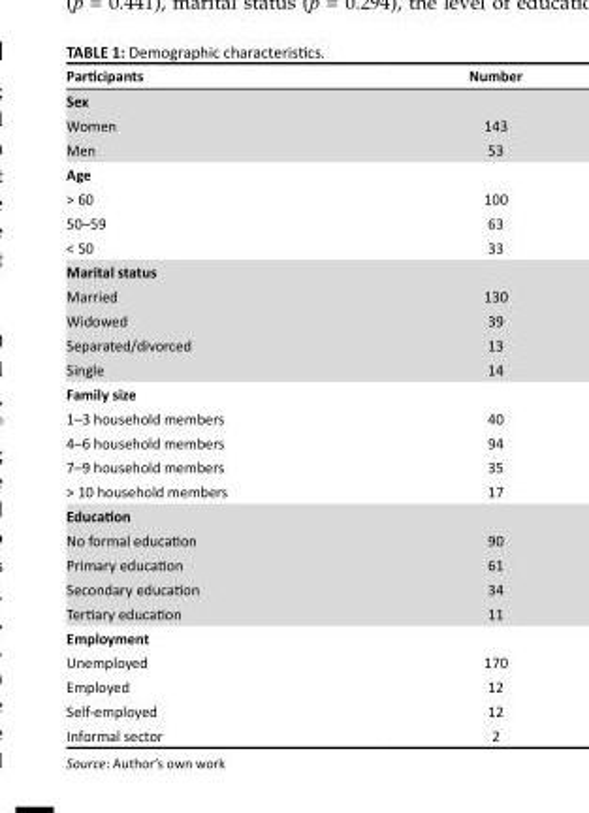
<table><thead><tr><td>Participants</td><td>Number</td></tr></thead><tbody><tr><td colspan="2">Sex</td></tr><tr><td>Women</td><td>143</td></tr><tr><td>Men</td><td>53</td></tr><tr><td colspan="2">Age</td></tr><tr><td>&gt; 60</td><td>100</td></tr><tr><td>50–59</td><td>63</td></tr><tr><td>&lt; 50</td><td>33</td></tr><tr><td colspan="2">Marital status</td></tr><tr><td>Married</td><td>130</td></tr><tr><td>Widowed</td><td>39</td></tr><tr><td>Separated/divorced</td><td>13</td></tr><tr><td>Single</td><td>14</td></tr><tr><td colspan="2">Family size</td></tr><tr><td>1–3 household members</td><td>40</td></tr><tr><td>4–6 household members</td><td>94</td></tr><tr><td>7–9 household members</td><td>35</td></tr><tr><td>&gt; 10 household members</td><td>17</td></tr><tr><td colspan="2">Education</td></tr><tr><td>No formal education</td><td>90</td></tr><tr><td>Primary education</td><td>61</td></tr><tr><td>Secondary education</td><td>34</td></tr><tr><td>Tertiary education</td><td>11</td></tr><tr><td colspan="2">Employment</td></tr><tr><td>Unemployed</td><td>170</td></tr><tr><td>Employed</td><td>12</td></tr><tr><td>Self-employed</td><td>12</td></tr><tr><td>Informal sector</td><td>2</td></tr></tbody></table>